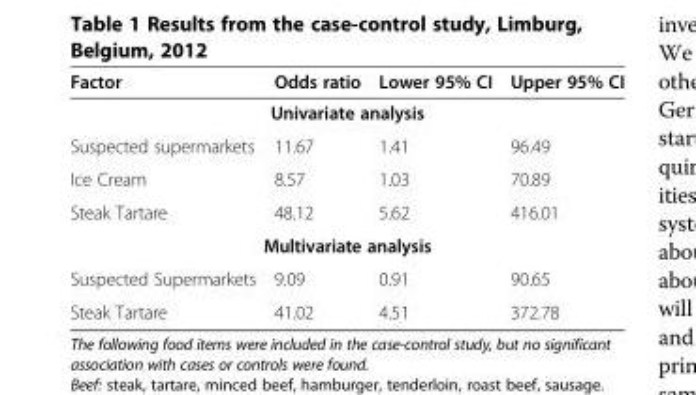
<table><thead><tr><td>Factor</td><td>Odds ratio</td><td>Lower 95% CI</td><td>Upper 95% CI</td></tr></thead><tbody><tr><td colspan="4">Univariate analysis</td></tr><tr><td>Suspected supermarkets</td><td>11.67</td><td>1.41</td><td>96.49</td></tr><tr><td>Ice Cream</td><td>8.57</td><td>1.03</td><td>70.89</td></tr><tr><td>Steak Tartare</td><td>48.12</td><td>5.62</td><td>416.01</td></tr><tr><td colspan="4">Multivariate analysis</td></tr><tr><td>Suspected Supermarkets</td><td>9.09</td><td>0.91</td><td>90.65</td></tr><tr><td>Steak Tartare</td><td>41.02</td><td>4.51</td><td>372.78</td></tr></tbody></table>